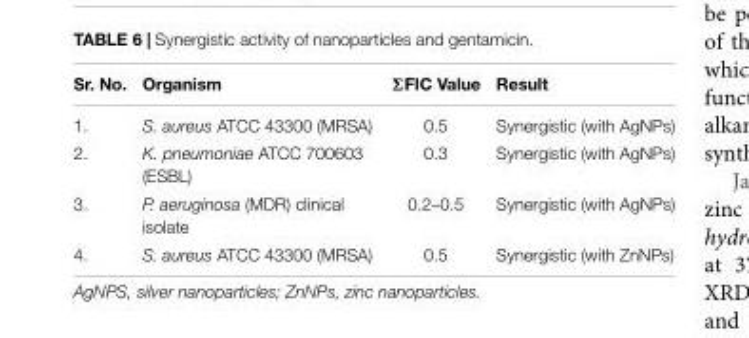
<table><thead><tr><td>Sr. No.</td><td>Organism</td><td>ΣFIC Value</td><td>Result</td></tr></thead><tbody><tr><td>1.</td><td>S. aureus ATCC 43300 (MRSA)</td><td>0.5</td><td>Synergistic (with AgNPs)</td></tr><tr><td>2.</td><td>K. pneumoniae ATCC 700603 (ESBL)</td><td>0.3</td><td>Synergistic (with AgNPs)</td></tr><tr><td>3.</td><td>P. aeruginosa (MDR) clinical isolate</td><td>0.2–0.5</td><td>Synergistic (with AgNPs)</td></tr><tr><td>4.</td><td>S. aureus ATCC 43300 (MRSA)</td><td>0.5</td><td>Synergistic (with ZnNPs)</td></tr></tbody></table>